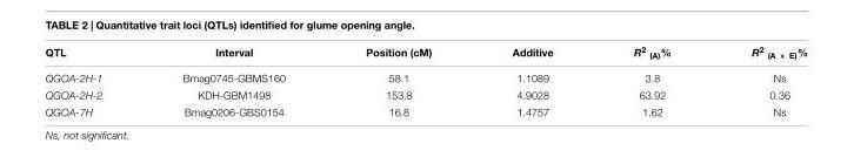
<table><thead><tr><td>QTL</td><td>Interval</td><td>Position (cM)</td><td>Additive</td><td>R<sup>2</sup> <sub>(A)</sub>%</td><td>R<sup>2</sup> <sub>(A × E)</sub>%</td></tr></thead><tbody><tr><td>QGOA-2H-1</td><td>Bmag0745-GBMS160</td><td>58.1</td><td>1.1089</td><td>3.8</td><td>Ns</td></tr><tr><td>QGOA-2H-2</td><td>KDH-GBM1498</td><td>153.8</td><td>4.9028</td><td>63.92</td><td>0.36</td></tr><tr><td>QGOA-7H</td><td>Bmag0206-GBS0154</td><td>16.8</td><td>1.4757</td><td>1.62</td><td>Ns</td></tr></tbody></table>